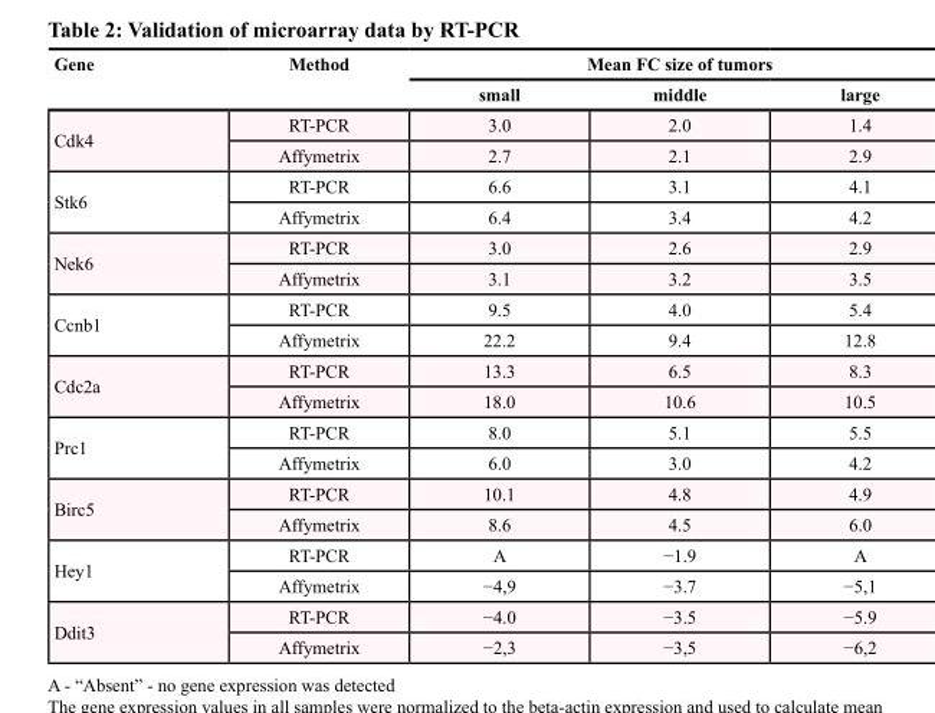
<table><thead><tr><td rowspan="2">Gene</td><td rowspan="2">Method</td><td colspan="3">Mean FC size of tumors</td></tr><tr><td>small</td><td>middle</td><td>large</td></tr></thead><tbody><tr><td rowspan="2">Cdk4</td><td>RT-PCR</td><td>3.0</td><td>2.0</td><td>1.4</td></tr><tr><td>Affymetrix</td><td>2.7</td><td>2.1</td><td>2.9</td></tr><tr><td rowspan="2">Stk6</td><td>RT-PCR</td><td>6.6</td><td>3.1</td><td>4.1</td></tr><tr><td>Affymetrix</td><td>6.4</td><td>3.4</td><td>4.2</td></tr><tr><td rowspan="2">Nek6</td><td>RT-PCR</td><td>3.0</td><td>2.6</td><td>2.9</td></tr><tr><td>Affymetrix</td><td>3.1</td><td>3.2</td><td>3.5</td></tr><tr><td rowspan="2">Ccnb1</td><td>RT-PCR</td><td>9.5</td><td>4.0</td><td>5.4</td></tr><tr><td>Affymetrix</td><td>22.2</td><td>9.4</td><td>12.8</td></tr><tr><td rowspan="2">Cdc2a</td><td>RT-PCR</td><td>13.3</td><td>6.5</td><td>8.3</td></tr><tr><td>Affymetrix</td><td>18.0</td><td>10.6</td><td>10.5</td></tr><tr><td rowspan="2">Prc1</td><td>RT-PCR</td><td>8.0</td><td>5.1</td><td>5.5</td></tr><tr><td>Affymetrix</td><td>6.0</td><td>3.0</td><td>4.2</td></tr><tr><td rowspan="2">Birc5</td><td>RT-PCR</td><td>10.1</td><td>4.8</td><td>4.9</td></tr><tr><td>Affymetrix</td><td>8.6</td><td>4.5</td><td>6.0</td></tr><tr><td rowspan="2">Hey1</td><td>RT-PCR</td><td>A</td><td>−1.9</td><td>A</td></tr><tr><td>Affymetrix</td><td>−4,9</td><td>−3.7</td><td>−5,1</td></tr><tr><td rowspan="2">Ddit3</td><td>RT-PCR</td><td>−4.0</td><td>−3.5</td><td>−5.9</td></tr><tr><td>Affymetrix</td><td>−2,3</td><td>−3,5</td><td>−6,2</td></tr></tbody></table>